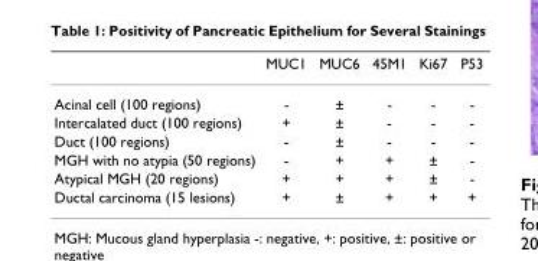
<table><thead><tr><td></td><td>MUC1</td><td>MUC6</td><td>45M1</td><td>Ki67</td><td>P53</td></tr></thead><tbody><tr><td>Acinal cell (100 regions)</td><td>-</td><td>±</td><td>-</td><td>-</td><td>-</td></tr><tr><td>Intercalated duct (100 regions)</td><td>+</td><td>±</td><td>-</td><td>-</td><td>-</td></tr><tr><td>Duct (100 regions)</td><td>-</td><td>±</td><td>-</td><td>-</td><td>-</td></tr><tr><td>MGH with no atypia (50 regions)</td><td>-</td><td>+</td><td>+</td><td>±</td><td>-</td></tr><tr><td>Atypical MGH (20 regions)</td><td>+</td><td>+</td><td>+</td><td>±</td><td>-</td></tr><tr><td>Ductal carcinoma (15 lesions)</td><td>+</td><td>±</td><td>+</td><td>+</td><td>+</td></tr></tbody></table>